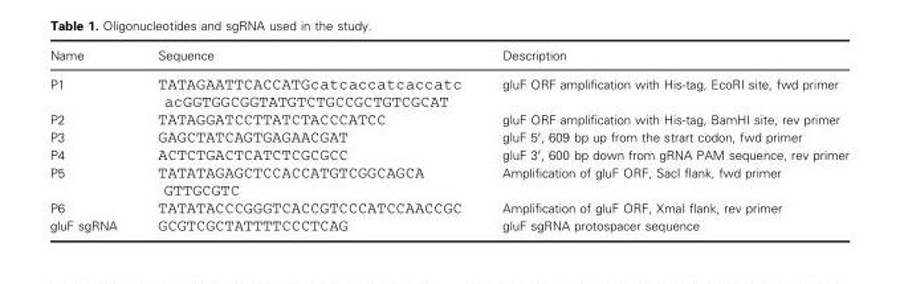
<table><thead><tr><td>Name</td><td>Sequence</td><td>Description</td></tr></thead><tbody><tr><td>P1</td><td>TATAGAATTCACCATGcatcaccatcaccatc acGGTGGCGGTATGTCTGCCGCTGTCGCAT</td><td>gluF ORF amplification with His-tag, EcoRI site, fwd primer</td></tr><tr><td>P2</td><td>TATAGGATCCTTATCTACCCATCC</td><td>gluF ORF amplification with His-tag, BamHI site, rev primer</td></tr><tr><td>P3</td><td>GAGCTATCAGTGAGAACGAT</td><td>gluF 5′, 609 bp up from the strart codon, fwd primer</td></tr><tr><td>P4</td><td>ACTCTGACTCATCTCGCGCC</td><td>gluF 3′, 600 bp down from gRNA PAM sequence, rev primer</td></tr><tr><td>P5</td><td>TATATAGAGCTCCACCATGTCGGCAGCA GTTGCGTC</td><td>Amplification of gluF ORF, SacI flank, fwd primer</td></tr><tr><td>P6</td><td>TATATACCCGGGTCACCGTCCCATCCAACCGC</td><td>Amplification of gluF ORF, XmaI flank, rev primer</td></tr><tr><td>gluF sgRNA</td><td>GCGTCGCTATTTTCCCTCAG</td><td>gluF sgRNA protospacer sequence</td></tr></tbody></table>